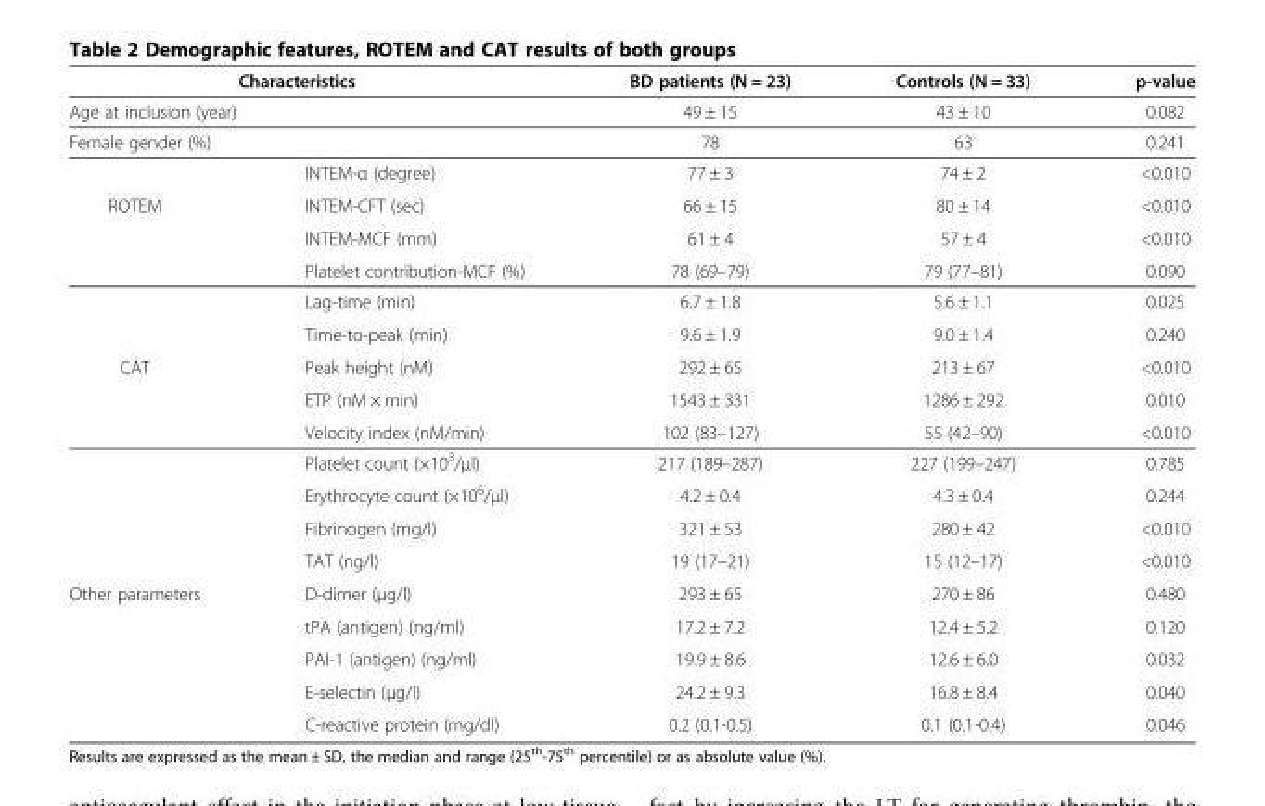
<table><thead><tr><td rowspan="3" colspan="2">Characteristics Age at inclusion (year) Female gender (%)</td><td rowspan="4">BD patients (N = 23) 49 ± 15 78 77 ± 3</td><td rowspan="4">Controls (N = 33) 43 ± 10 63 74 ± 2</td><td rowspan="4">p-value 0.082 0.241 &lt;0.010</td></tr><tr></tr><tr></tr><tr><td></td><td>INTEM-α (degree)</td></tr></thead><tbody><tr><td rowspan="4">ROTEM</td><td>INTEM-CFT (sec)</td><td>66 ± 15</td><td>80 ± 14</td><td>&lt;0.010</td></tr><tr><td>INTEM-MCF (mm)</td><td>61 ± 4</td><td>57 ± 4</td><td>&lt;0.010</td></tr><tr><td>Platelet contribution-MCF (%)</td><td>78 (69–79)</td><td>79 (77–81)</td><td>0.090</td></tr><tr><td>Lag-time (min)</td><td>6.7 ± 1.8</td><td>5.6 ± 1.1</td><td>0.025</td></tr><tr><td rowspan="8">CAT</td><td>Time-to-peak (min)</td><td>9.6 ± 1.9</td><td>9.0 ± 1.4</td><td>0.240</td></tr><tr><td>Peak height (nM)</td><td>292 ± 65</td><td>213 ± 67</td><td>&lt;0.010</td></tr><tr><td>ETP (nM × min)</td><td>1543 ± 331</td><td>1286 ± 292</td><td>0.010</td></tr><tr><td>Velocity index (nM/min)</td><td>102 (83–127)</td><td>55 (42–90)</td><td>&lt;0.010</td></tr><tr><td>Platelet count (×10<sup>3</sup>/μl)</td><td>217 (189–287)</td><td>227 (199–247)</td><td>0.785</td></tr><tr><td>Erythrocyte count (×10<sup>6</sup>/μl)</td><td>4.2 ± 0.4</td><td>4.3 ± 0.4</td><td>0.244</td></tr><tr><td>Fibrinogen (mg/l)</td><td>321 ± 53</td><td>280 ± 42</td><td>&lt;0.010</td></tr><tr><td>TAT (ng/l)</td><td>19 (17–21)</td><td>15 (12–17)</td><td>&lt;0.010</td></tr><tr><td rowspan="5">Other parameters</td><td>D-dimer (μg/l)</td><td>293 ± 65</td><td>270 ± 86</td><td>0.480</td></tr><tr><td>tPA (antigen) (ng/ml)</td><td>17.2 ± 7.2</td><td>12.4 ± 5.2</td><td>0.120</td></tr><tr><td>PAI-1 (antigen) (ng/ml)</td><td>19.9 ± 8.6</td><td>12.6 ± 6.0</td><td>0.032</td></tr><tr><td>E-selectin (μg/l)</td><td>24.2 ± 9.3</td><td>16.8 ± 8.4</td><td>0.040</td></tr><tr><td>C-reactive protein (mg/dl)</td><td>0.2 (0.1-0.5)</td><td>0.1 (0.1-0.4)</td><td>0.046</td></tr></tbody></table>